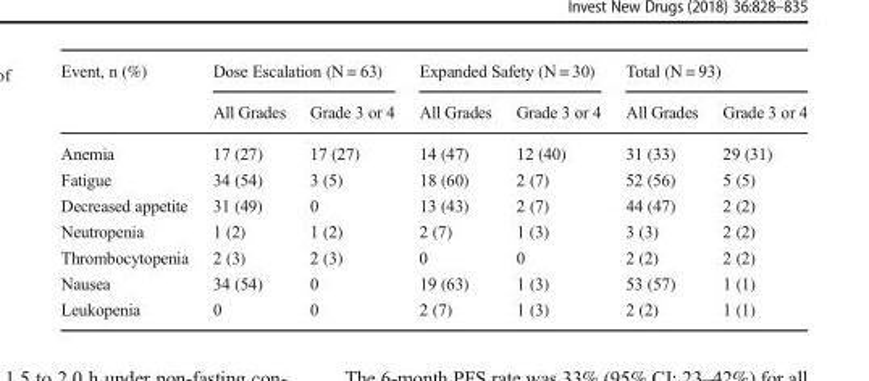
<table><thead><tr><td rowspan="2">Event, n (%)</td><td colspan="2">Dose Escalation (N = 63)</td><td colspan="2">Expanded Safety (N = 30)</td><td colspan="2">Total (N = 93)</td></tr><tr><td>All Grades</td><td>Grade 3 or 4</td><td>All Grades</td><td>Grade 3 or 4</td><td>All Grades</td><td>Grade 3 or 4</td></tr></thead><tbody><tr><td>Anemia</td><td>17 (27)</td><td>17 (27)</td><td>14 (47)</td><td>12 (40)</td><td>31 (33)</td><td>29 (31)</td></tr><tr><td>Fatigue</td><td>34 (54)</td><td>3 (5)</td><td>18 (60)</td><td>2 (7)</td><td>52 (56)</td><td>5 (5)</td></tr><tr><td>Decreased appetite</td><td>31 (49)</td><td>0</td><td>13 (43)</td><td>2 (7)</td><td>44 (47)</td><td>2 (2)</td></tr><tr><td>Neutropenia</td><td>1 (2)</td><td>1 (2)</td><td>2 (7)</td><td>1 (3)</td><td>3 (3)</td><td>2 (2)</td></tr><tr><td>Thrombocytopenia</td><td>2 (3)</td><td>2 (3)</td><td>0</td><td>0</td><td>2 (2)</td><td>2 (2)</td></tr><tr><td>Nausea</td><td>34 (54)</td><td>0</td><td>19 (63)</td><td>1 (3)</td><td>53 (57)</td><td>1 (1)</td></tr><tr><td>Leukopenia</td><td>0</td><td>0</td><td>2 (7)</td><td>1 (3)</td><td>2 (2)</td><td>1 (1)</td></tr></tbody></table>